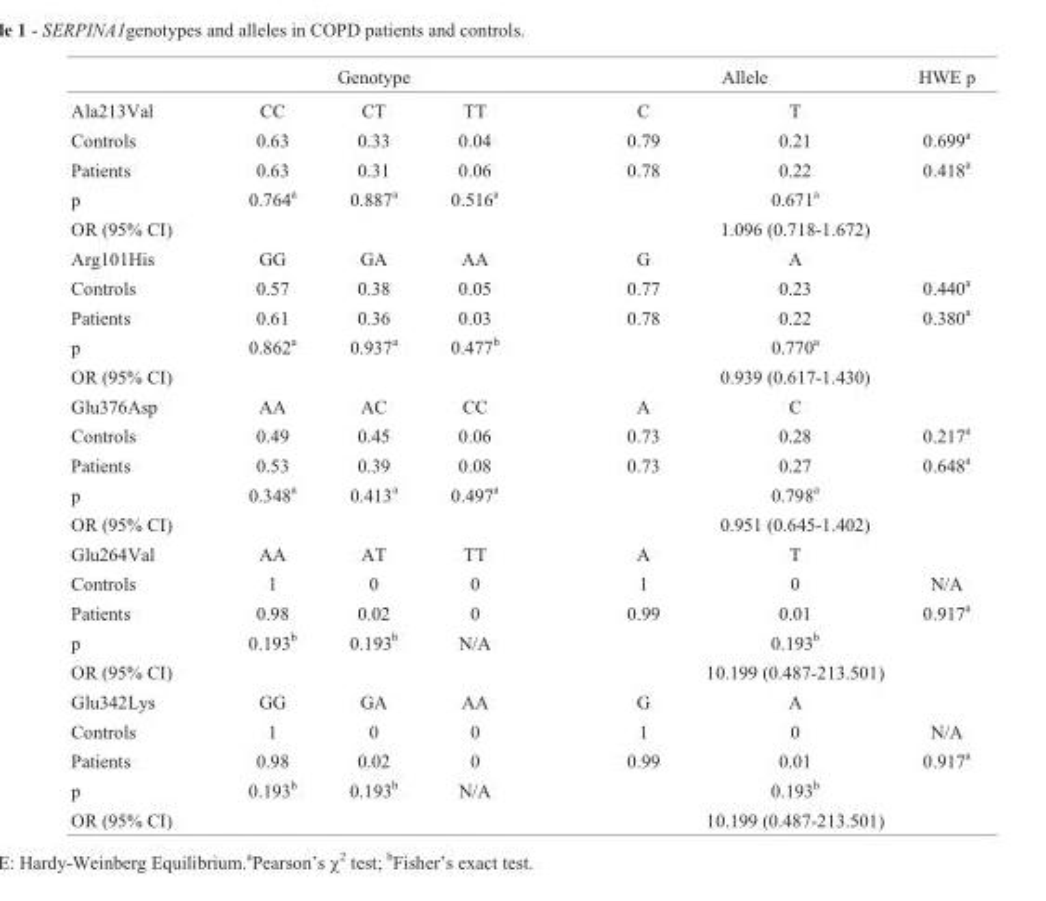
<table><thead><tr><td rowspan="2">Ala213Val</td><td colspan="3">Genotype</td><td colspan="2">Allele</td><td rowspan="2">HWE p</td></tr><tr><td>CC</td><td>CT</td><td>TT</td><td>C</td><td>T</td></tr></thead><tbody><tr><td>Controls</td><td>0.63</td><td>0.33</td><td>0.04</td><td>0.79</td><td>0.21</td><td>0.699<sup>a</sup></td></tr><tr><td>Patients</td><td>0.63</td><td>0.31</td><td>0.06</td><td>0.78</td><td>0.22</td><td>0.418<sup>a</sup></td></tr><tr><td>p</td><td>0.764<sup>a</sup></td><td>0.887<sup>a</sup></td><td>0.516<sup>a</sup></td><td></td><td>0.671<sup>a</sup></td><td></td></tr><tr><td>OR (95% CI)</td><td></td><td></td><td></td><td></td><td>1.096 (0.718-1.672)</td><td></td></tr><tr><td>Arg101His</td><td>GG</td><td>GA</td><td>AA</td><td>G</td><td>A</td><td></td></tr><tr><td>Controls</td><td>0.57</td><td>0.38</td><td>0.05</td><td>0.77</td><td>0.23</td><td>0.440<sup>a</sup></td></tr><tr><td>Patients</td><td>0.61</td><td>0.36</td><td>0.03</td><td>0.78</td><td>0.22</td><td>0.380<sup>a</sup></td></tr><tr><td>p</td><td>0.862<sup>a</sup></td><td>0.937<sup>a</sup></td><td>0.477<sup>b</sup></td><td></td><td>0.770<sup>a</sup></td><td></td></tr><tr><td>OR (95% CI)</td><td></td><td></td><td></td><td></td><td>0.939 (0.617-1.430)</td><td></td></tr><tr><td>Glu376Asp</td><td>AA</td><td>AC</td><td>CC</td><td>A</td><td>C</td><td></td></tr><tr><td>Controls</td><td>0.49</td><td>0.45</td><td>0.06</td><td>0.73</td><td>0.28</td><td>0.217<sup>a</sup></td></tr><tr><td>Patients</td><td>0.53</td><td>0.39</td><td>0.08</td><td>0.73</td><td>0.27</td><td>0.648<sup>a</sup></td></tr><tr><td>p</td><td>0.348<sup>a</sup></td><td>0.413<sup>a</sup></td><td>0.497<sup>a</sup></td><td></td><td>0.798<sup>a</sup></td><td></td></tr><tr><td>OR (95% CI)</td><td></td><td></td><td></td><td></td><td>0.951 (0.645-1.402)</td><td></td></tr><tr><td>Glu264Val</td><td>AA</td><td>AT</td><td>TT</td><td>A</td><td>T</td><td></td></tr><tr><td>Controls</td><td>1</td><td>0</td><td>0</td><td>1</td><td>0</td><td>N/A</td></tr><tr><td>Patients</td><td>0.98</td><td>0.02</td><td>0</td><td>0.99</td><td>0.01</td><td>0.917<sup>a</sup></td></tr><tr><td>p</td><td>0.193<sup>b</sup></td><td>0.193<sup>b</sup></td><td>N/A</td><td></td><td>0.193<sup>b</sup></td><td></td></tr><tr><td>OR (95% CI)</td><td></td><td></td><td></td><td></td><td>10.199 (0.487-213.501)</td><td></td></tr><tr><td>Glu342Lys</td><td>GG</td><td>GA</td><td>AA</td><td>G</td><td>A</td><td></td></tr><tr><td>Controls</td><td>1</td><td>0</td><td>0</td><td>1</td><td>0</td><td>N/A</td></tr><tr><td>Patients</td><td>0.98</td><td>0.02</td><td>0</td><td>0.99</td><td>0.01</td><td>0.917<sup>a</sup></td></tr><tr><td>p</td><td>0.193<sup>b</sup></td><td>0.193<sup>b</sup></td><td>N/A</td><td></td><td>0.193<sup>b</sup></td><td></td></tr><tr><td>OR (95% CI)</td><td></td><td></td><td></td><td></td><td>10.199 (0.487-213.501)</td><td></td></tr></tbody></table>